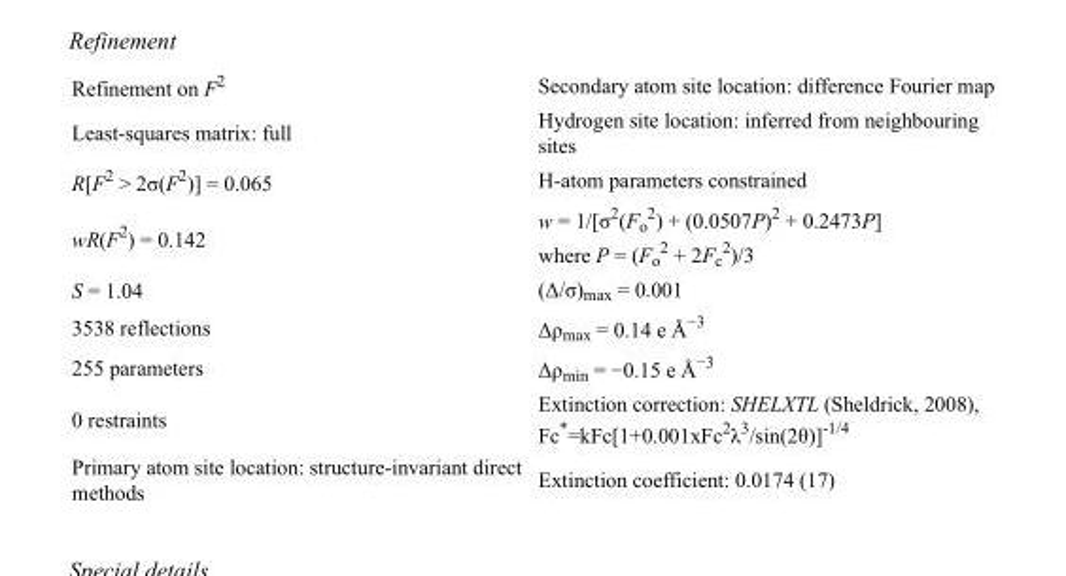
<table><tbody><tr><td>Refinement on F<sup>2</sup></td><td>Secondary atom site location: difference Fourier map</td></tr><tr><td>Least-squares matrix: full</td><td>Hydrogen site location: inferred from neighbouring sites</td></tr><tr><td>R[F<sup>2</sup> &gt; 2σ(F<sup>2</sup>)] = 0.065</td><td>H-atom parameters constrained</td></tr><tr><td>wR(F<sup>2</sup>) = 0.142</td><td>w = 1/[σ<sup>2</sup>(F<sub>o</sub> <sup>2</sup>) + (0.0507P)<sup>2</sup> + 0.2473P] where P = (F<sub>o</sub> <sup>2</sup> + 2F<sub>c</sub> <sup>2</sup>)/3</td></tr><tr><td>S = 1.04</td><td>(Δ/σ)<sub>max</sub> = 0.001</td></tr><tr><td>3538 reflections</td><td>Δρ<sub>max</sub> = 0.14 e Å<sup>−3</sup></td></tr><tr><td>255 parameters</td><td>Δρ<sub>min</sub> = −0.15 e Å<sup>−3</sup></td></tr><tr><td>0 restraints</td><td>Extinction correction: SHELXTL (Sheldrick, 2008), Fc*=kFc[1+0.001xFc<sup>2</sup>λ<sup>3</sup>/sin(2θ)]<sup>-1/4</sup></td></tr><tr><td>Primary atom site location: structure-invariant direct methods</td><td>Extinction coefficient: 0.0174 (17)</td></tr></tbody></table>